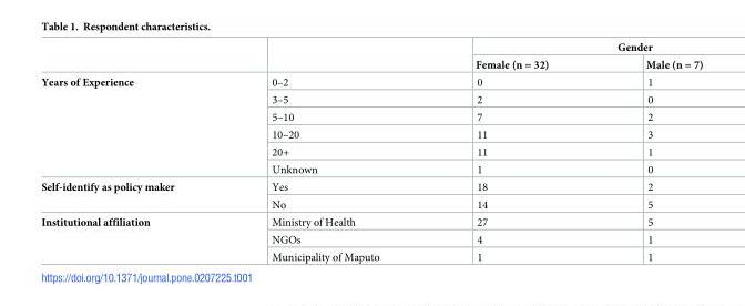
<table><thead><tr><td rowspan="2"></td><td rowspan="2"></td><td colspan="2">Gender</td></tr><tr><td>Female (n = 32)</td><td>Male (n = 7)</td></tr></thead><tbody><tr><td rowspan="6">Years of Experience</td><td>0–2</td><td>0</td><td>1</td></tr><tr><td>3–5</td><td>2</td><td>0</td></tr><tr><td>5–10</td><td>7</td><td>2</td></tr><tr><td>10–20</td><td>11</td><td>3</td></tr><tr><td>20+</td><td>11</td><td>1</td></tr><tr><td>Unknown</td><td>1</td><td>0</td></tr><tr><td rowspan="2">Self-identify as policy maker</td><td>Yes</td><td>18</td><td>2</td></tr><tr><td>No</td><td>14</td><td>5</td></tr><tr><td rowspan="3">Institutional affiliation</td><td>Ministry of Health</td><td>27</td><td>5</td></tr><tr><td>NGOs</td><td>4</td><td>1</td></tr><tr><td>Municipality of Maputo</td><td>1</td><td>1</td></tr></tbody></table>